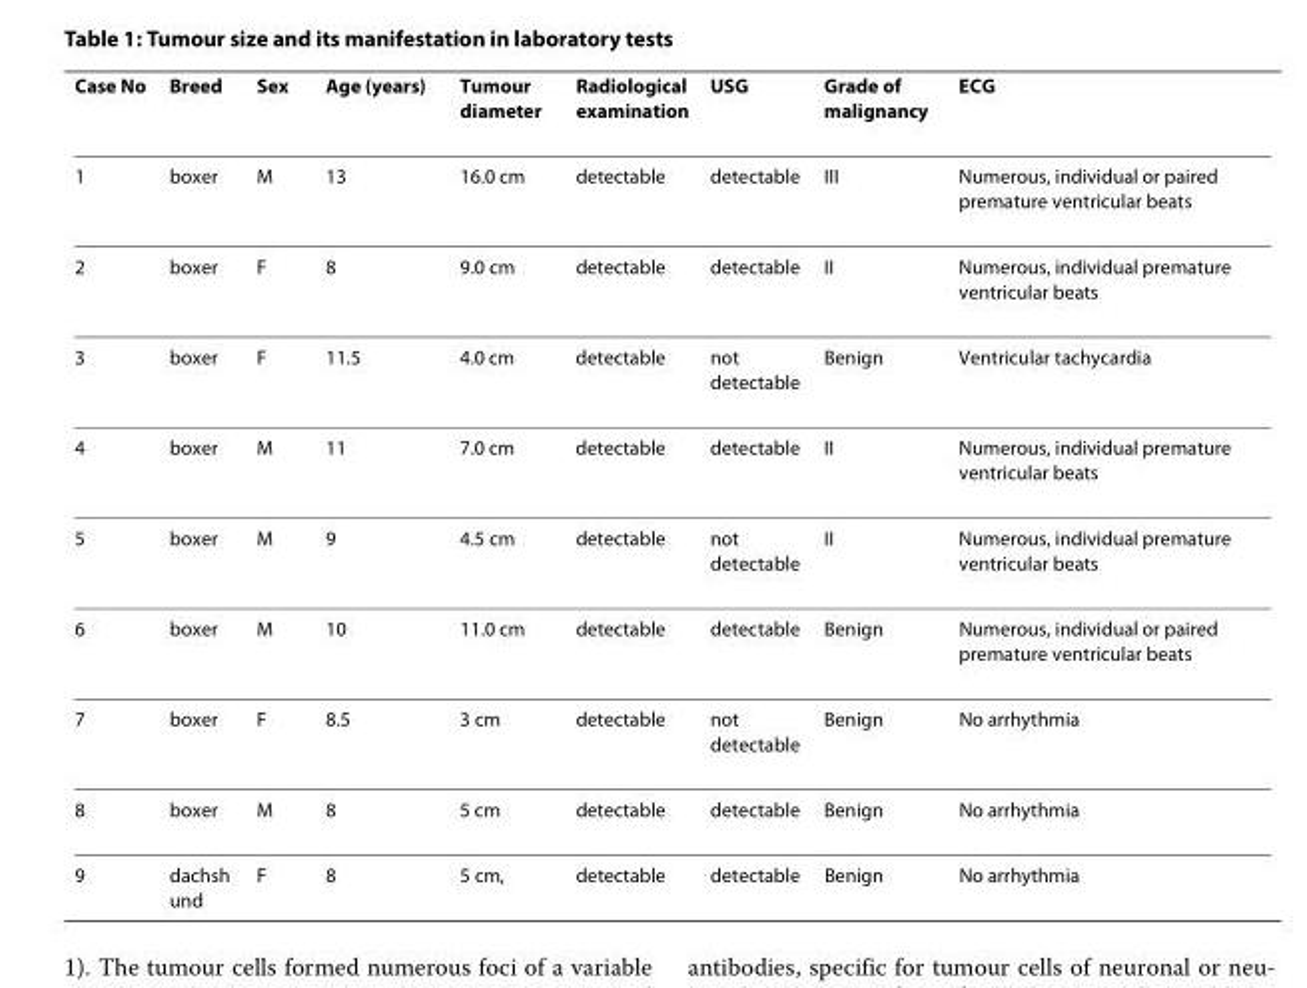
<table><thead><tr><td>Case No</td><td>Breed</td><td>Sex</td><td>Age (years)</td><td>Tumour diameter</td><td>Radiological examination</td><td>USG</td><td>Grade of malignancy</td><td>ECG</td></tr></thead><tbody><tr><td>1</td><td>boxer</td><td>M</td><td>13</td><td>16.0 cm</td><td>detectable</td><td>detectable</td><td>III</td><td>Numerous, individual or paired premature ventricular beats</td></tr><tr><td>2</td><td>boxer</td><td>F</td><td>8</td><td>9.0 cm</td><td>detectable</td><td>detectable</td><td>II</td><td>Numerous, individual premature ventricular beats</td></tr><tr><td>3</td><td>boxer</td><td>F</td><td>11.5</td><td>4.0 cm</td><td>detectable</td><td>not detectable</td><td>Benign</td><td>Ventricular tachycardia</td></tr><tr><td>4</td><td>boxer</td><td>M</td><td>11</td><td>7.0 cm</td><td>detectable</td><td>detectable</td><td>II</td><td>Numerous, individual premature ventricular beats</td></tr><tr><td>5</td><td>boxer</td><td>M</td><td>9</td><td>4.5 cm</td><td>detectable</td><td>not detectable</td><td>II</td><td>Numerous, individual premature ventricular beats</td></tr><tr><td>6</td><td>boxer</td><td>M</td><td>10</td><td>11.0 cm</td><td>detectable</td><td>detectable</td><td>Benign</td><td>Numerous, individual or paired premature ventricular beats</td></tr><tr><td>7</td><td>boxer</td><td>F</td><td>8.5</td><td>3 cm</td><td>detectable</td><td>not detectable</td><td>Benign</td><td>No arrhythmia</td></tr><tr><td>8</td><td>boxer</td><td>M</td><td>8</td><td>5 cm</td><td>detectable</td><td>detectable</td><td>Benign</td><td>No arrhythmia</td></tr><tr><td>9</td><td>dachsh und</td><td>F</td><td>8</td><td>5 cm,</td><td>detectable</td><td>detectable</td><td>Benign</td><td>No arrhythmia</td></tr></tbody></table>